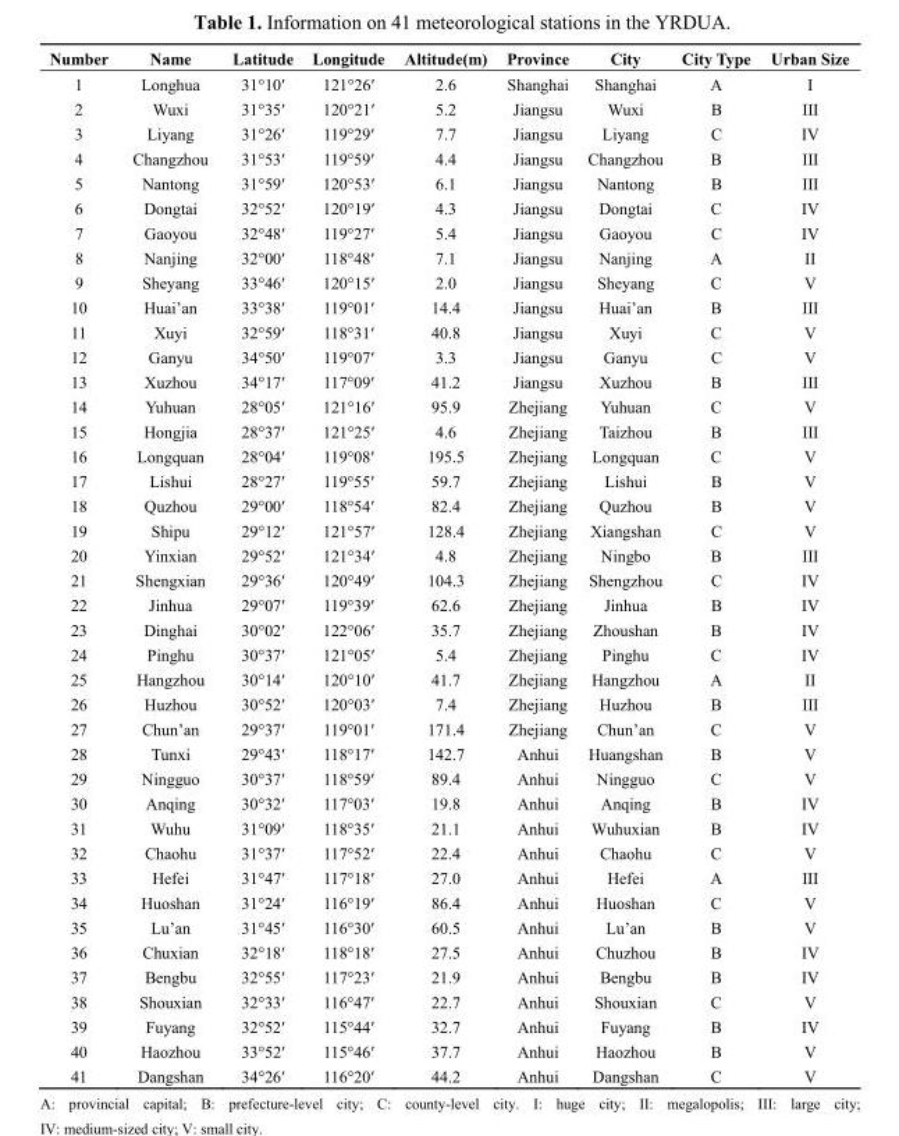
<table><thead><tr><td>Number</td><td>Name</td><td>Latitude</td><td>Longitude</td><td>Altitude(m)</td><td>Province</td><td>City</td><td>City Type</td><td>Urban Size</td></tr></thead><tbody><tr><td>1</td><td>Longhua</td><td>31°10′</td><td>121°26′</td><td>2.6</td><td>Shanghai</td><td>Shanghai</td><td>A</td><td>I</td></tr><tr><td>2</td><td>Wuxi</td><td>31°35′</td><td>120°21′</td><td>5.2</td><td>Jiangsu</td><td>Wuxi</td><td>B</td><td>III</td></tr><tr><td>3</td><td>Liyang</td><td>31°26′</td><td>119°29′</td><td>7.7</td><td>Jiangsu</td><td>Liyang</td><td>C</td><td>IV</td></tr><tr><td>4</td><td>Changzhou</td><td>31°53′</td><td>119°59′</td><td>4.4</td><td>Jiangsu</td><td>Changzhou</td><td>B</td><td>III</td></tr><tr><td>5</td><td>Nantong</td><td>31°59′</td><td>120°53′</td><td>6.1</td><td>Jiangsu</td><td>Nantong</td><td>B</td><td>III</td></tr><tr><td>6</td><td>Dongtai</td><td>32°52′</td><td>120°19′</td><td>4.3</td><td>Jiangsu</td><td>Dongtai</td><td>C</td><td>IV</td></tr><tr><td>7</td><td>Gaoyou</td><td>32°48′</td><td>119°27′</td><td>5.4</td><td>Jiangsu</td><td>Gaoyou</td><td>C</td><td>IV</td></tr><tr><td>8</td><td>Nanjing</td><td>32°00′</td><td>118°48′</td><td>7.1</td><td>Jiangsu</td><td>Nanjing</td><td>A</td><td>II</td></tr><tr><td>9</td><td>Sheyang</td><td>33°46′</td><td>120°15′</td><td>2.0</td><td>Jiangsu</td><td>Sheyang</td><td>C</td><td>V</td></tr><tr><td>10</td><td>Huai’an</td><td>33°38′</td><td>119°01′</td><td>14.4</td><td>Jiangsu</td><td>Huai’an</td><td>B</td><td>III</td></tr><tr><td>11</td><td>Xuyi</td><td>32°59′</td><td>118°31′</td><td>40.8</td><td>Jiangsu</td><td>Xuyi</td><td>C</td><td>V</td></tr><tr><td>12</td><td>Ganyu</td><td>34°50′</td><td>119°07′</td><td>3.3</td><td>Jiangsu</td><td>Ganyu</td><td>C</td><td>V</td></tr><tr><td>13</td><td>Xuzhou</td><td>34°17′</td><td>117°09′</td><td>41.2</td><td>Jiangsu</td><td>Xuzhou</td><td>B</td><td>III</td></tr><tr><td>14</td><td>Yuhuan</td><td>28°05′</td><td>121°16′</td><td>95.9</td><td>Zhejiang</td><td>Yuhuan</td><td>C</td><td>V</td></tr><tr><td>15</td><td>Hongjia</td><td>28°37′</td><td>121°25′</td><td>4.6</td><td>Zhejiang</td><td>Taizhou</td><td>B</td><td>III</td></tr><tr><td>16</td><td>Longquan</td><td>28°04′</td><td>119°08′</td><td>195.5</td><td>Zhejiang</td><td>Longquan</td><td>C</td><td>V</td></tr><tr><td>17</td><td>Lishui</td><td>28°27′</td><td>119°55′</td><td>59.7</td><td>Zhejiang</td><td>Lishui</td><td>B</td><td>V</td></tr><tr><td>18</td><td>Quzhou</td><td>29°00′</td><td>118°54′</td><td>82.4</td><td>Zhejiang</td><td>Quzhou</td><td>B</td><td>V</td></tr><tr><td>19</td><td>Shipu</td><td>29°12′</td><td>121°57′</td><td>128.4</td><td>Zhejiang</td><td>Xiangshan</td><td>C</td><td>V</td></tr><tr><td>20</td><td>Yinxian</td><td>29°52′</td><td>121°34′</td><td>4.8</td><td>Zhejiang</td><td>Ningbo</td><td>B</td><td>III</td></tr><tr><td>21</td><td>Shengxian</td><td>29°36′</td><td>120°49′</td><td>104.3</td><td>Zhejiang</td><td>Shengzhou</td><td>C</td><td>IV</td></tr><tr><td>22</td><td>Jinhua</td><td>29°07′</td><td>119°39′</td><td>62.6</td><td>Zhejiang</td><td>Jinhua</td><td>B</td><td>IV</td></tr><tr><td>23</td><td>Dinghai</td><td>30°02′</td><td>122°06′</td><td>35.7</td><td>Zhejiang</td><td>Zhoushan</td><td>B</td><td>IV</td></tr><tr><td>24</td><td>Pinghu</td><td>30°37′</td><td>121°05′</td><td>5.4</td><td>Zhejiang</td><td>Pinghu</td><td>C</td><td>IV</td></tr><tr><td>25</td><td>Hangzhou</td><td>30°14′</td><td>120°10′</td><td>41.7</td><td>Zhejiang</td><td>Hangzhou</td><td>A</td><td>II</td></tr><tr><td>26</td><td>Huzhou</td><td>30°52′</td><td>120°03′</td><td>7.4</td><td>Zhejiang</td><td>Huzhou</td><td>B</td><td>III</td></tr><tr><td>27</td><td>Chun’an</td><td>29°37′</td><td>119°01′</td><td>171.4</td><td>Zhejiang</td><td>Chun’an</td><td>C</td><td>V</td></tr><tr><td>28</td><td>Tunxi</td><td>29°43′</td><td>118°17′</td><td>142.7</td><td>Anhui</td><td>Huangshan</td><td>B</td><td>V</td></tr><tr><td>29</td><td>Ningguo</td><td>30°37′</td><td>118°59′</td><td>89.4</td><td>Anhui</td><td>Ningguo</td><td>C</td><td>V</td></tr><tr><td>30</td><td>Anqing</td><td>30°32′</td><td>117°03′</td><td>19.8</td><td>Anhui</td><td>Anqing</td><td>B</td><td>IV</td></tr><tr><td>31</td><td>Wuhu</td><td>31°09′</td><td>118°35′</td><td>21.1</td><td>Anhui</td><td>Wuhuxian</td><td>B</td><td>IV</td></tr><tr><td>32</td><td>Chaohu</td><td>31°37′</td><td>117°52′</td><td>22.4</td><td>Anhui</td><td>Chaohu</td><td>C</td><td>V</td></tr><tr><td>33</td><td>Hefei</td><td>31°47′</td><td>117°18′</td><td>27.0</td><td>Anhui</td><td>Hefei</td><td>A</td><td>III</td></tr><tr><td>34</td><td>Huoshan</td><td>31°24′</td><td>116°19′</td><td>86.4</td><td>Anhui</td><td>Huoshan</td><td>C</td><td>V</td></tr><tr><td>35</td><td>Lu’an</td><td>31°45′</td><td>116°30′</td><td>60.5</td><td>Anhui</td><td>Lu’an</td><td>B</td><td>V</td></tr><tr><td>36</td><td>Chuxian</td><td>32°18′</td><td>118°18′</td><td>27.5</td><td>Anhui</td><td>Chuzhou</td><td>B</td><td>IV</td></tr><tr><td>37</td><td>Bengbu</td><td>32°55′</td><td>117°23′</td><td>21.9</td><td>Anhui</td><td>Bengbu</td><td>B</td><td>IV</td></tr><tr><td>38</td><td>Shouxian</td><td>32°33′</td><td>116°47′</td><td>22.7</td><td>Anhui</td><td>Shouxian</td><td>C</td><td>V</td></tr><tr><td>39</td><td>Fuyang</td><td>32°52′</td><td>115°44′</td><td>32.7</td><td>Anhui</td><td>Fuyang</td><td>B</td><td>IV</td></tr><tr><td>40</td><td>Haozhou</td><td>33°52′</td><td>115°46′</td><td>37.7</td><td>Anhui</td><td>Haozhou</td><td>B</td><td>V</td></tr><tr><td>41</td><td>Dangshan</td><td>34°26′</td><td>116°20′</td><td>44.2</td><td>Anhui</td><td>Dangshan</td><td>C</td><td>V</td></tr></tbody></table>